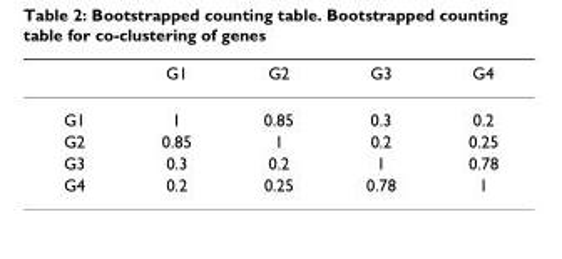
<table><thead><tr><td></td><td>G1</td><td>G2</td><td>G3</td><td>G4</td></tr></thead><tbody><tr><td>G1</td><td>1</td><td>0.85</td><td>0.3</td><td>0.2</td></tr><tr><td>G2</td><td>0.85</td><td>1</td><td>0.2</td><td>0.25</td></tr><tr><td>G3</td><td>0.3</td><td>0.2</td><td>1</td><td>0.78</td></tr><tr><td>G4</td><td>0.2</td><td>0.25</td><td>0.78</td><td>1</td></tr></tbody></table>